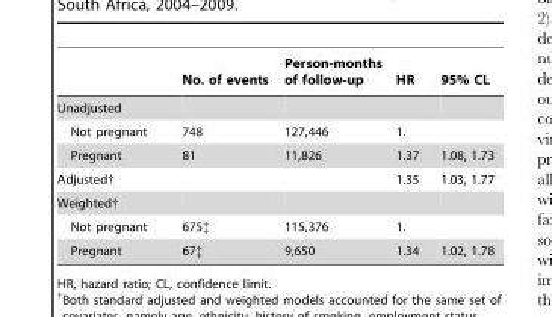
<table><thead><tr><td></td><td>No. of events</td><td>Person-months of follow-up</td><td>HR</td><td>95% CL</td></tr></thead><tbody><tr><td colspan="5">Unadjusted</td></tr><tr><td>Not pregnant</td><td>748</td><td>127,446</td><td>1.</td><td></td></tr><tr><td>Pregnant</td><td>81</td><td>11,826</td><td>1.37</td><td>1.08, 1.73</td></tr><tr><td>Adjusted†</td><td></td><td></td><td>1.35</td><td>1.03, 1.77</td></tr><tr><td colspan="5">Weighted†</td></tr><tr><td>Not pregnant</td><td>675‡</td><td>115,376</td><td>1.</td><td></td></tr><tr><td>Pregnant</td><td>67‡</td><td>9,650</td><td>1.34</td><td>1.02, 1.78</td></tr></tbody></table>